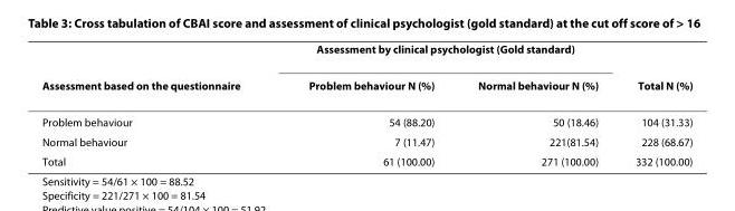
<table><thead><tr><td rowspan="2">Assessment based on the questionnaire</td><td colspan="2">Assessment by clinical psychologist (Gold standard)</td><td rowspan="2">Total N (%)</td></tr><tr><td>Problem behaviour N (%)</td><td>Normal behaviour N (%)</td></tr></thead><tbody><tr><td>Problem behaviour</td><td>54 (88.20)</td><td>50 (18.46)</td><td>104 (31.33)</td></tr><tr><td>Normal behaviour</td><td>7 (11.47)</td><td>221(81.54)</td><td>228 (68.67)</td></tr><tr><td>Total</td><td>61 (100.00)</td><td>271 (100.00)</td><td>332 (100.00)</td></tr></tbody></table>